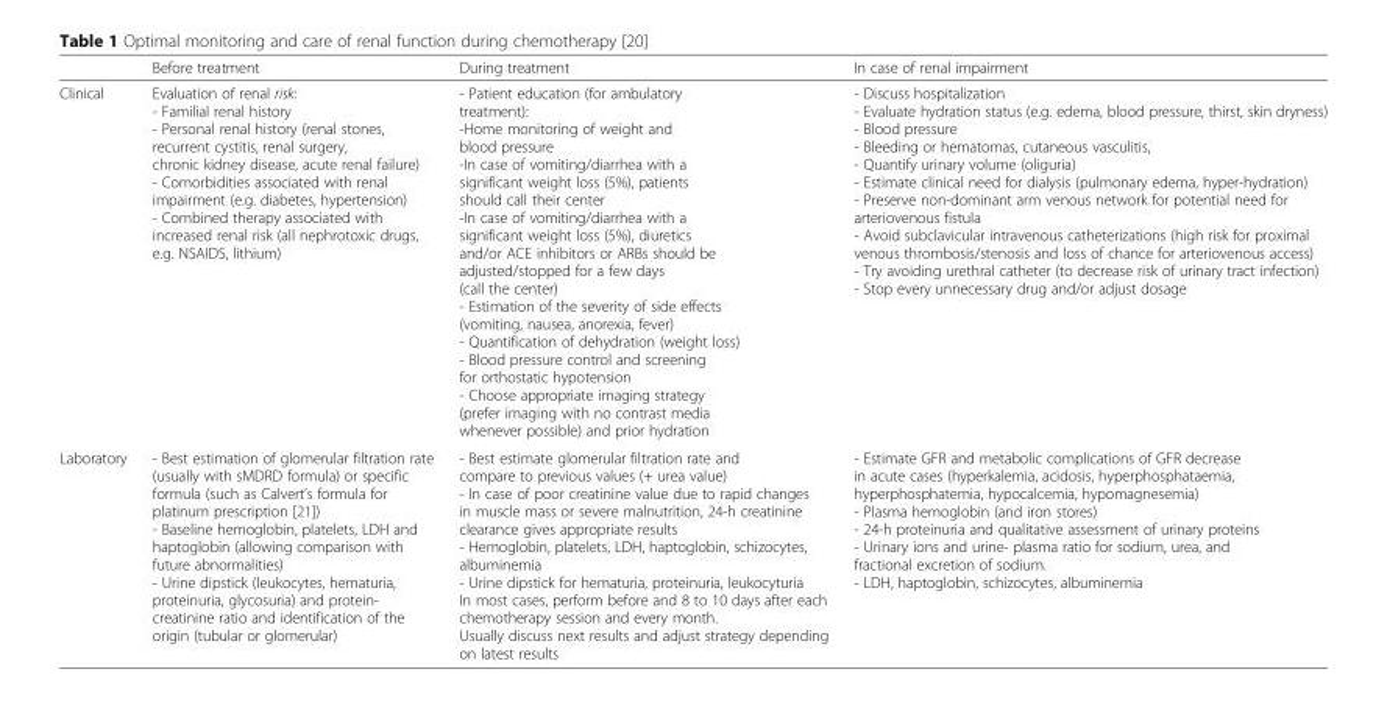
<table><thead><tr><td></td><td>Before treatment</td><td>During treatment</td><td>In case of renal impairment</td></tr></thead><tbody><tr><td>Clinical</td><td>Evaluation of renal risk: - Familial renal history - Personal renal history (renal stones, recurrent cystitis, renal surgery, chronic kidney disease, acute renal failure) - Comorbidities associated with renal impairment (e.g. diabetes, hypertension) - Combined therapy associated with increased renal risk (all nephrotoxic drugs, e.g. NSAIDS, lithium)</td><td>- Patient education (for ambulatory treatment): -Home monitoring of weight and blood pressure -In case of vomiting/diarrhea with a significant weight loss (5%), patients should call their center -In case of vomiting/diarrhea with a significant weight loss (5%), diuretics and/or ACE inhibitors or ARBs should be adjusted/stopped for a few days (call the center) - Estimation of the severity of side effects (vomiting, nausea, anorexia, fever) - Quantification of dehydration (weight loss) - Blood pressure control and screening for orthostatic hypotension - Choose appropriate imaging strategy (prefer imaging with no contrast media whenever possible) and prior hydration</td><td>- Discuss hospitalization - Evaluate hydration status (e.g. edema, blood pressure, thirst, skin dryness) - Blood pressure - Bleeding or hematomas, cutaneous vasculitis, - Quantify urinary volume (oliguria) - Estimate clinical need for dialysis (pulmonary edema, hyper-hydration) - Preserve non-dominant arm venous network for potential need for arteriovenous fistula - Avoid subclavicular intravenous catheterizations (high risk for proximal venous thrombosis/stenosis and loss of chance for arteriovenous access) - Try avoiding urethral catheter (to decrease risk of urinary tract infection) - Stop every unnecessary drug and/or adjust dosage</td></tr><tr><td>Laboratory</td><td>- Best estimation of glomerular filtration rate (usually with sMDRD formula) or specific formula (such as Calvert’s formula for platinum prescription [21]) - Baseline hemoglobin, platelets, LDH and haptoglobin (allowing comparison with future abnormalities) - Urine dipstick (leukocytes, hematuria, proteinuria, glycosuria) and protein- creatinine ratio and identification of the origin (tubular or glomerular)</td><td>- Best estimate glomerular filtration rate and compare to previous values (+ urea value) - In case of poor creatinine value due to rapid changes in muscle mass or severe malnutrition, 24-h creatinine clearance gives appropriate results - Hemoglobin, platelets, LDH, haptoglobin, schizocytes, albuminemia - Urine dipstick for hematuria, proteinuria, leukocyturia In most cases, perform before and 8 to 10 days after each chemotherapy session and every month. Usually discuss next results and adjust strategy depending on latest results</td><td>- Estimate GFR and metabolic complications of GFR decrease in acute cases (hyperkalemia, acidosis, hyperphosphataemia, hyperphosphatemia, hypocalcemia, hypomagnesemia) - Plasma hemoglobin (and iron stores) - 24-h proteinuria and qualitative assessment of urinary proteins - Urinary ions and urine- plasma ratio for sodium, urea, and fractional excretion of sodium. - LDH, haptoglobin, schizocytes, albuminemia</td></tr></tbody></table>